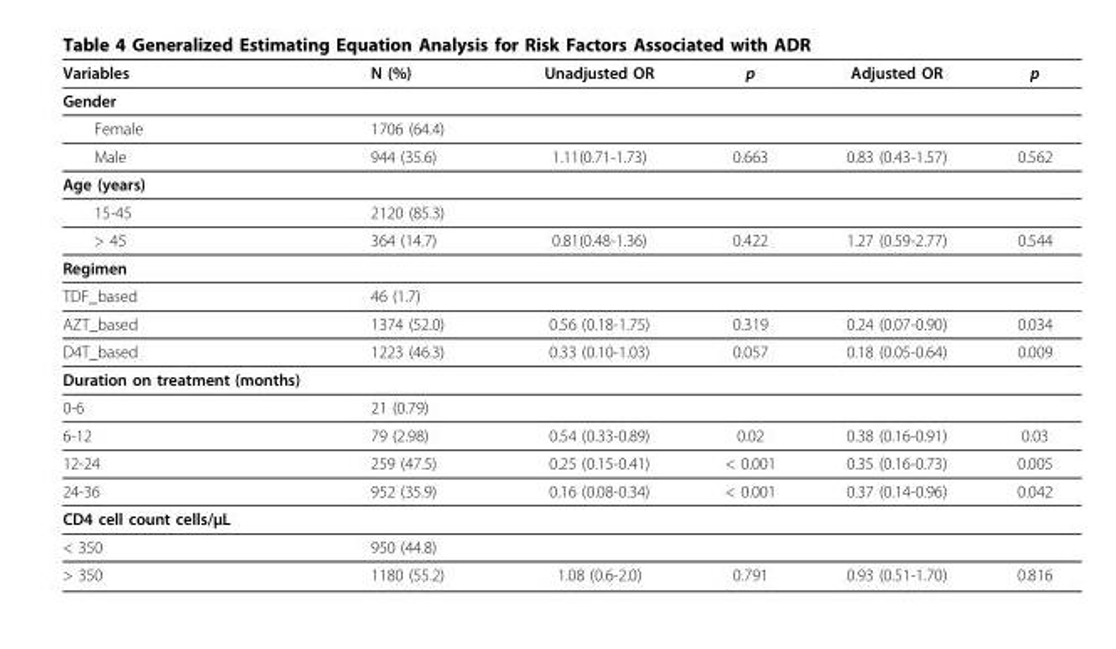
<table><thead><tr><td>Variables</td><td>N (%)</td><td>Unadjusted OR</td><td>p</td><td>Adjusted OR</td><td>p</td></tr></thead><tbody><tr><td colspan="6">Gender</td></tr><tr><td>Female</td><td>1706 (64.4)</td><td></td><td></td><td></td><td></td></tr><tr><td>Male</td><td>944 (35.6)</td><td>1.11(0.71-1.73)</td><td>0.663</td><td>0.83 (0.43-1.57)</td><td>0.562</td></tr><tr><td colspan="6">Age (years)</td></tr><tr><td>15-45</td><td>2120 (85.3)</td><td></td><td></td><td></td><td></td></tr><tr><td>&gt; 45</td><td>364 (14.7)</td><td>0.81(0.48-1.36)</td><td>0.422</td><td>1.27 (0.59-2.77)</td><td>0.544</td></tr><tr><td colspan="6">Regimen</td></tr><tr><td>TDF_based</td><td>46 (1.7)</td><td></td><td></td><td></td><td></td></tr><tr><td>AZT_based</td><td>1374 (52.0)</td><td>0.56 (0.18-1.75)</td><td>0.319</td><td>0.24 (0.07-0.90)</td><td>0.034</td></tr><tr><td>D4T_based</td><td>1223 (46.3)</td><td>0.33 (0.10-1.03)</td><td>0.057</td><td>0.18 (0.05-0.64)</td><td>0.009</td></tr><tr><td colspan="6">Duration on treatment (months)</td></tr><tr><td>0-6</td><td>21 (0.79)</td><td></td><td></td><td></td><td></td></tr><tr><td>6-12</td><td>79 (2.98)</td><td>0.54 (0.33-0.89)</td><td>0.02</td><td>0.38 (0.16-0.91)</td><td>0.03</td></tr><tr><td>12-24</td><td>259 (47.5)</td><td>0.25 (0.15-0.41)</td><td>&lt; 0.001</td><td>0.35 (0.16-0.73)</td><td>0.005</td></tr><tr><td>24-36</td><td>952 (35.9)</td><td>0.16 (0.08-0.34)</td><td>&lt; 0.001</td><td>0.37 (0.14-0.96)</td><td>0.042</td></tr><tr><td colspan="6">CD4 cell count cells/μL</td></tr><tr><td>&lt; 350</td><td>950 (44.8)</td><td></td><td></td><td></td><td></td></tr><tr><td>&gt; 350</td><td>1180 (55.2)</td><td>1.08 (0.6-2.0)</td><td>0.791</td><td>0.93 (0.51-1.70)</td><td>0.816</td></tr></tbody></table>